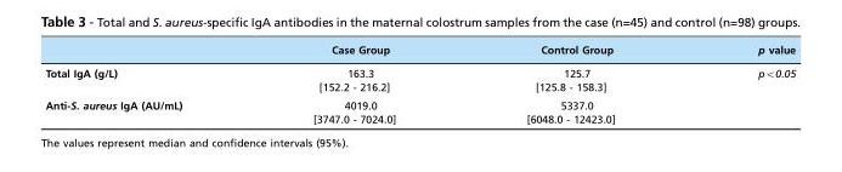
<table><thead><tr><td></td><td>Case Group</td><td>Control Group</td><td>p value</td></tr></thead><tbody><tr><td>Total IgA (g/L)</td><td>163.3 [152.2 - 216.2]</td><td>125.7 [125.8 - 158.3]</td><td>p&lt;0.05</td></tr><tr><td>Anti-S. aureus IgA (AU/mL)</td><td>4019.0 [3747.0 - 7024.0]</td><td>5337.0 [6048.0 - 12423.0]</td><td></td></tr></tbody></table>